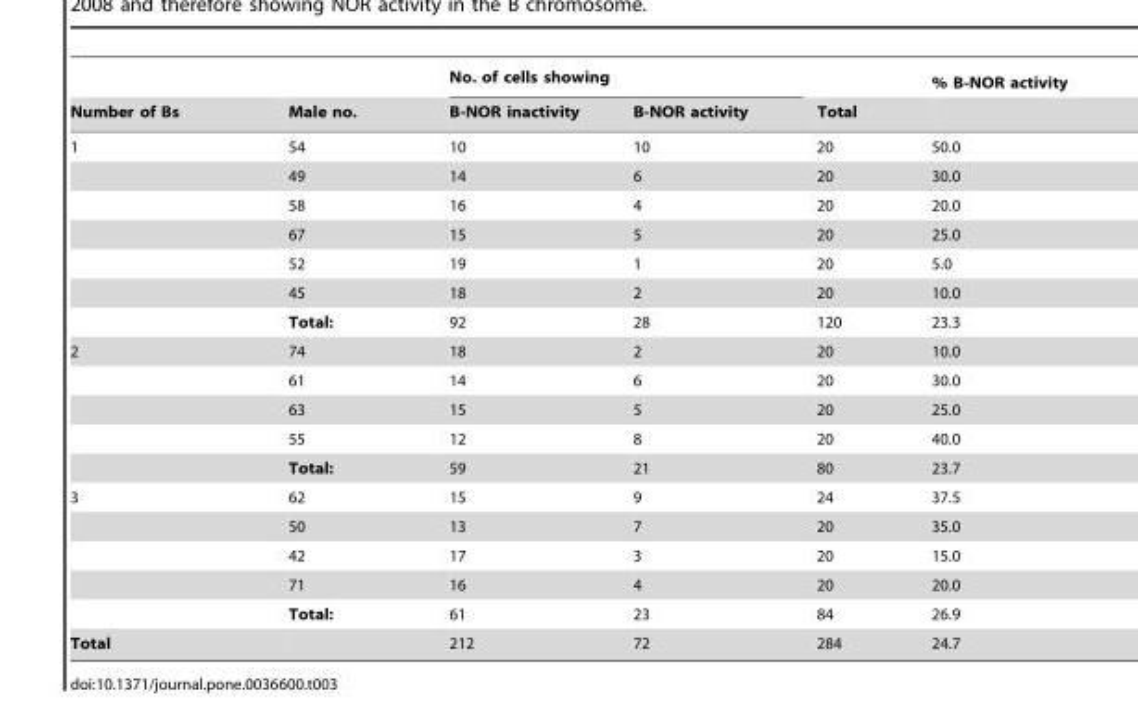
<table><thead><tr><td rowspan="2">Number of Bs</td><td rowspan="2">Male no.</td><td colspan="2">No. of cells showing</td><td rowspan="2">Total</td><td rowspan="2">% B-NOR activity</td></tr><tr><td>B-NOR inactivity</td><td>B-NOR activity</td></tr></thead><tbody><tr><td rowspan="7">1</td><td>54</td><td>10</td><td>10</td><td>20</td><td>50.0</td></tr><tr><td>49</td><td>14</td><td>6</td><td>20</td><td>30.0</td></tr><tr><td>58</td><td>16</td><td>4</td><td>20</td><td>20.0</td></tr><tr><td>67</td><td>15</td><td>5</td><td>20</td><td>25.0</td></tr><tr><td>52</td><td>19</td><td>1</td><td>20</td><td>5.0</td></tr><tr><td>45</td><td>18</td><td>2</td><td>20</td><td>10.0</td></tr><tr><td>Total:</td><td>92</td><td>28</td><td>120</td><td>23.3</td></tr><tr><td rowspan="5">2</td><td>74</td><td>18</td><td>2</td><td>20</td><td>10.0</td></tr><tr><td>61</td><td>14</td><td>6</td><td>20</td><td>30.0</td></tr><tr><td>63</td><td>15</td><td>5</td><td>20</td><td>25.0</td></tr><tr><td>55</td><td>12</td><td>8</td><td>20</td><td>40.0</td></tr><tr><td>Total:</td><td>59</td><td>21</td><td>80</td><td>23.7</td></tr><tr><td rowspan="5">3</td><td>62</td><td>15</td><td>9</td><td>24</td><td>37.5</td></tr><tr><td>50</td><td>13</td><td>7</td><td>20</td><td>35.0</td></tr><tr><td>42</td><td>17</td><td>3</td><td>20</td><td>15.0</td></tr><tr><td>71</td><td>16</td><td>4</td><td>20</td><td>20.0</td></tr><tr><td>Total:</td><td>61</td><td>23</td><td>84</td><td>26.9</td></tr><tr><td>Total</td><td></td><td>212</td><td>72</td><td>284</td><td>24.7</td></tr></tbody></table>